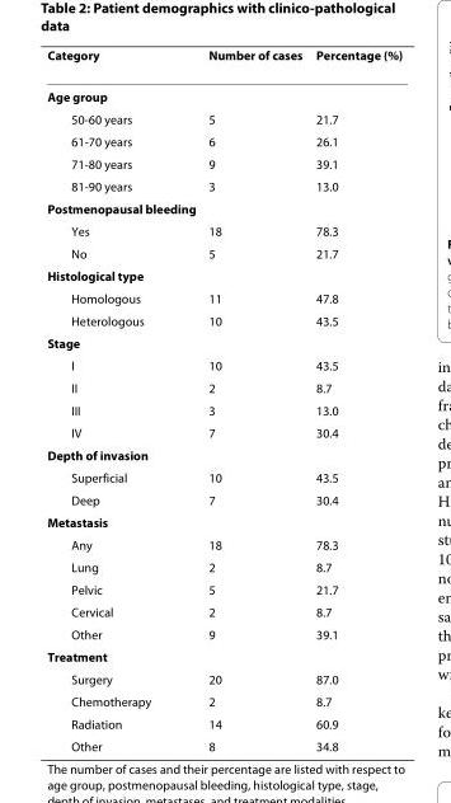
<table><thead><tr><td>Category</td><td>Number of cases</td><td>Percentage (%)</td></tr></thead><tbody><tr><td colspan="3">Age group</td></tr><tr><td>50-60 years</td><td>5</td><td>21.7</td></tr><tr><td>61-70 years</td><td>6</td><td>26.1</td></tr><tr><td>71-80 years</td><td>9</td><td>39.1</td></tr><tr><td>81-90 years</td><td>3</td><td>13.0</td></tr><tr><td colspan="3">Postmenopausal bleeding</td></tr><tr><td>Yes</td><td>18</td><td>78.3</td></tr><tr><td>No</td><td>5</td><td>21.7</td></tr><tr><td colspan="3">Histological type</td></tr><tr><td>Homologous</td><td>11</td><td>47.8</td></tr><tr><td>Heterologous</td><td>10</td><td>43.5</td></tr><tr><td colspan="3">Stage</td></tr><tr><td>I</td><td>10</td><td>43.5</td></tr><tr><td>II</td><td>2</td><td>8.7</td></tr><tr><td>III</td><td>3</td><td>13.0</td></tr><tr><td>IV</td><td>7</td><td>30.4</td></tr><tr><td colspan="3">Depth of invasion</td></tr><tr><td>Superficial</td><td>10</td><td>43.5</td></tr><tr><td>Deep</td><td>7</td><td>30.4</td></tr><tr><td colspan="3">Metastasis</td></tr><tr><td>Any</td><td>18</td><td>78.3</td></tr><tr><td>Lung</td><td>2</td><td>8.7</td></tr><tr><td>Pelvic</td><td>5</td><td>21.7</td></tr><tr><td>Cervical</td><td>2</td><td>8.7</td></tr><tr><td>Other</td><td>9</td><td>39.1</td></tr><tr><td colspan="3">Treatment</td></tr><tr><td>Surgery</td><td>20</td><td>87.0</td></tr><tr><td>Chemotherapy</td><td>2</td><td>8.7</td></tr><tr><td>Radiation</td><td>14</td><td>60.9</td></tr><tr><td>Other</td><td>8</td><td>34.8</td></tr></tbody></table>